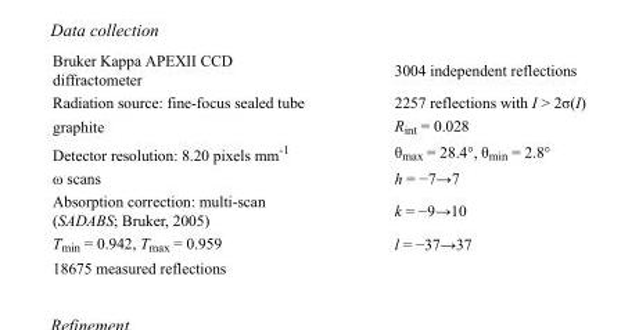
<table><tbody><tr><td>Bruker Kappa APEXII CCD diffractometer</td><td>3004 independent reflections</td></tr><tr><td>Radiation source: fine-focus sealed tube</td><td>2257 reflections with I &gt; 2σ(I)</td></tr><tr><td>graphite</td><td>R<sub>int</sub> = 0.028</td></tr><tr><td>Detector resolution: 8.20 pixels mm<sup>-1</sup></td><td>θ<sub>max</sub> = 28.4°, θ<sub>min</sub> = 2.8°</td></tr><tr><td>ω scans</td><td>h = −7→7</td></tr><tr><td>Absorption correction: multi-scan (SADABS; Bruker, 2005)</td><td>k = −9→10</td></tr><tr><td>T<sub>min</sub> = 0.942, T<sub>max</sub> = 0.959</td><td>l = −37→37</td></tr><tr><td>18675 measured reflections</td><td></td></tr></tbody></table>